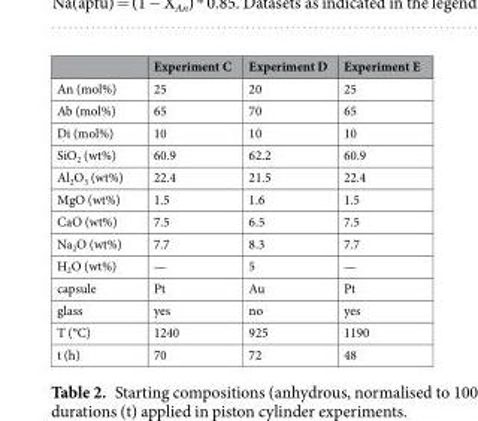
<table><thead><tr><td></td><td>Experiment C</td><td>Experiment D</td><td>Experiment E</td></tr></thead><tbody><tr><td>An (mol%)</td><td>25</td><td>20</td><td>25</td></tr><tr><td>Ab (mol%)</td><td>65</td><td>70</td><td>65</td></tr><tr><td>Di (mol%)</td><td>10</td><td>10</td><td>10</td></tr><tr><td>SiO<sub>2</sub> (wt%)</td><td>60.9</td><td>62.2</td><td>60.9</td></tr><tr><td>Al<sub>2</sub>O<sub>3</sub> (wt%)</td><td>22.4</td><td>21.5</td><td>22.4</td></tr><tr><td>MgO (wt%)</td><td>1.5</td><td>1.6</td><td>1.5</td></tr><tr><td>CaO (wt%)</td><td>7.5</td><td>6.5</td><td>7.5</td></tr><tr><td>Na<sub>2</sub>O (wt%)</td><td>7.7</td><td>8.3</td><td>7.7</td></tr><tr><td>H<sub>2</sub>O (wt%)</td><td>—</td><td>5</td><td>—</td></tr><tr><td>capsule</td><td>Pt</td><td>Au</td><td>Pt</td></tr><tr><td>glass</td><td>yes</td><td>no</td><td>yes</td></tr><tr><td>T (°C)</td><td>1240</td><td>925</td><td>1190</td></tr><tr><td>t (h)</td><td>70</td><td>72</td><td>48</td></tr></tbody></table>